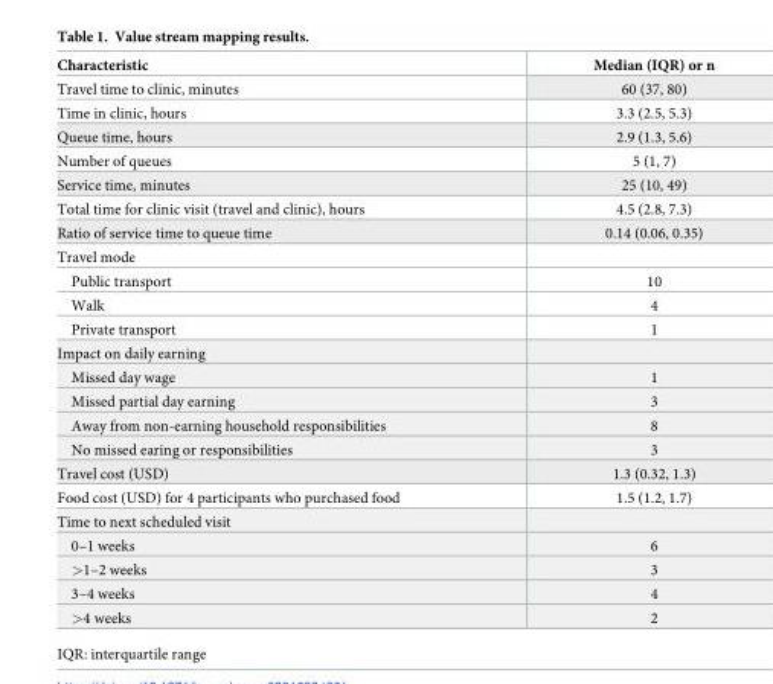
<table><thead><tr><td>Characteristic</td><td>Median (IQR) or n</td></tr></thead><tbody><tr><td>Travel time to clinic, minutes</td><td>60 (37, 80)</td></tr><tr><td>Time in clinic, hours</td><td>3.3 (2.5, 5.3)</td></tr><tr><td>Queue time, hours</td><td>2.9 (1.3, 5.6)</td></tr><tr><td>Number of queues</td><td>5 (1, 7)</td></tr><tr><td>Service time, minutes</td><td>25 (10, 49)</td></tr><tr><td>Total time for clinic visit (travel and clinic), hours</td><td>4.5 (2.8, 7.3)</td></tr><tr><td>Ratio of service time to queue time</td><td>0.14 (0.06, 0.35)</td></tr><tr><td colspan="2">Travel mode</td></tr><tr><td>Public transport</td><td>10</td></tr><tr><td>Walk</td><td>4</td></tr><tr><td>Private transport</td><td>1</td></tr><tr><td colspan="2">Impact on daily earning</td></tr><tr><td>Missed day wage</td><td>1</td></tr><tr><td>Missed partial day earning</td><td>3</td></tr><tr><td>Away from non-earning household responsibilities</td><td>8</td></tr><tr><td>No missed earing or responsibilities</td><td>3</td></tr><tr><td>Travel cost (USD)</td><td>1.3 (0.32, 1.3)</td></tr><tr><td>Food cost (USD) for 4 participants who purchased food</td><td>1.5 (1.2, 1.7)</td></tr><tr><td colspan="2">Time to next scheduled visit</td></tr><tr><td>0–1 weeks</td><td>6</td></tr><tr><td>&gt;1–2 weeks</td><td>3</td></tr><tr><td>3–4 weeks</td><td>4</td></tr><tr><td>&gt;4 weeks</td><td>2</td></tr></tbody></table>